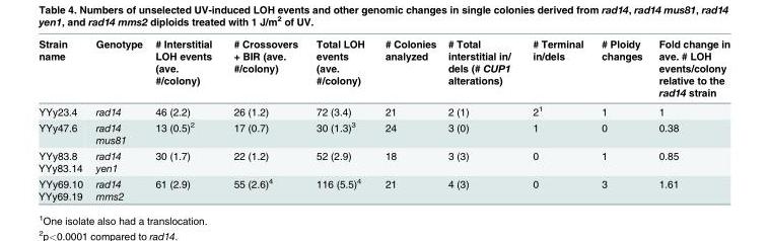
<table><thead><tr><td>Strain name</td><td>Genotype</td><td># Interstitial LOH events (ave. #/colony)</td><td># Crossovers + BIR (ave. #/colony)</td><td>Total LOH events (ave. #/colony)</td><td># Colonies analyzed</td><td># Total interstitial in/ dels (# CUP1 alterations)</td><td># Terminal in/dels</td><td># Ploidy changes</td><td>Fold change in ave. # LOH events/colony relative to the rad14 strain</td></tr></thead><tbody><tr><td>YYy23.4</td><td>rad14</td><td>46 (2.2)</td><td>26 (1.2)</td><td>72 (3.4)</td><td>21</td><td>2 (1)</td><td>2<sup>1</sup></td><td>1</td><td>1</td></tr><tr><td>YYy47.6</td><td>rad14 mus81</td><td>13 (0.5)<sup>2</sup></td><td>17 (0.7)</td><td>30 (1.3)<sup>3</sup></td><td>24</td><td>3 (0)</td><td>1</td><td>0</td><td>0.38</td></tr><tr><td>YYy83.8 YYy83.14</td><td>rad14 yen1</td><td>30 (1.7)</td><td>22 (1.2)</td><td>52 (2.9)</td><td>18</td><td>3 (3)</td><td>0</td><td>1</td><td>0.85</td></tr><tr><td>YYy69.10 YYy69.19</td><td>rad14 mms2</td><td>61 (2.9)</td><td>55 (2.6)<sup>4</sup></td><td>116 (5.5)<sup>4</sup></td><td>21</td><td>4 (3)</td><td>0</td><td>3</td><td>1.61</td></tr></tbody></table>